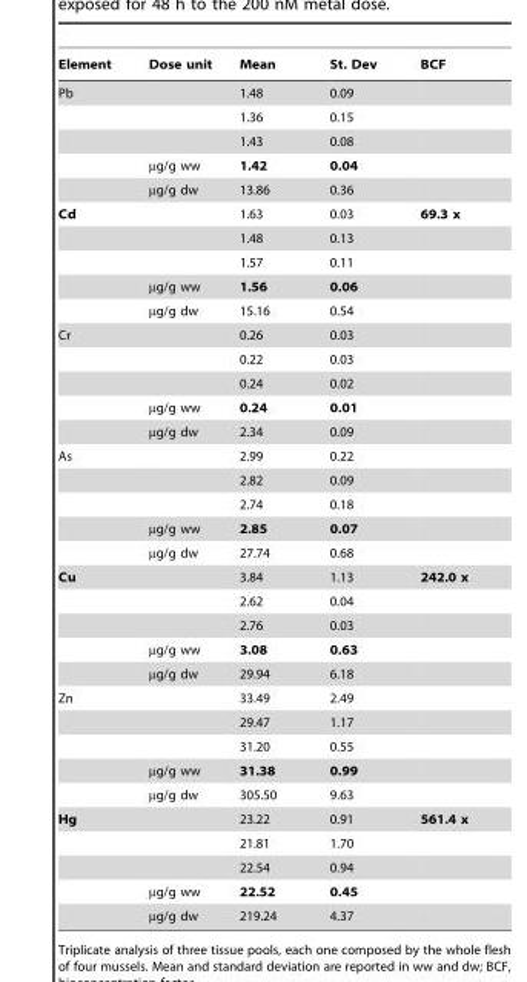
<table><thead><tr><td>Element</td><td>Dose unit</td><td>Mean</td><td>St. Dev</td><td>BCF</td></tr></thead><tbody><tr><td rowspan="5">Pb</td><td></td><td>1.48</td><td>0.09</td><td></td></tr><tr><td></td><td>1.36</td><td>0.15</td><td></td></tr><tr><td></td><td>1.43</td><td>0.08</td><td></td></tr><tr><td>µg/g ww</td><td>1.42</td><td>0.04</td><td></td></tr><tr><td>µg/g dw</td><td>13.86</td><td>0.36</td><td></td></tr><tr><td rowspan="5">Cd</td><td></td><td>1.63</td><td>0.03</td><td>69.3 x</td></tr><tr><td></td><td>1.48</td><td>0.13</td><td></td></tr><tr><td></td><td>1.57</td><td>0.11</td><td></td></tr><tr><td>µg/g ww</td><td>1.56</td><td>0.06</td><td></td></tr><tr><td>µg/g dw</td><td>15.16</td><td>0.54</td><td></td></tr><tr><td rowspan="5">Cr</td><td></td><td>0.26</td><td>0.03</td><td></td></tr><tr><td></td><td>0.22</td><td>0.03</td><td></td></tr><tr><td></td><td>0.24</td><td>0.02</td><td></td></tr><tr><td>µg/g ww</td><td>0.24</td><td>0.01</td><td></td></tr><tr><td>µg/g dw</td><td>2.34</td><td>0.09</td><td></td></tr><tr><td rowspan="5">As</td><td></td><td>2.99</td><td>0.22</td><td></td></tr><tr><td></td><td>2.82</td><td>0.09</td><td></td></tr><tr><td></td><td>2.74</td><td>0.18</td><td></td></tr><tr><td>µg/g ww</td><td>2.85</td><td>0.07</td><td></td></tr><tr><td>µg/g dw</td><td>27.74</td><td>0.68</td><td></td></tr><tr><td rowspan="5">Cu</td><td></td><td>3.84</td><td>1.13</td><td>242.0 x</td></tr><tr><td></td><td>2.62</td><td>0.04</td><td></td></tr><tr><td></td><td>2.76</td><td>0.03</td><td></td></tr><tr><td>µg/g ww</td><td>3.08</td><td>0.63</td><td></td></tr><tr><td>µg/g dw</td><td>29.94</td><td>6.18</td><td></td></tr><tr><td rowspan="5">Zn</td><td></td><td>33.49</td><td>2.49</td><td></td></tr><tr><td></td><td>29.47</td><td>1.17</td><td></td></tr><tr><td></td><td>31.20</td><td>0.55</td><td></td></tr><tr><td>µg/g ww</td><td>31.38</td><td>0.99</td><td></td></tr><tr><td>µg/g dw</td><td>305.50</td><td>9.63</td><td></td></tr><tr><td rowspan="5">Hg</td><td></td><td>23.22</td><td>0.91</td><td>561.4 x</td></tr><tr><td></td><td>21.81</td><td>1.70</td><td></td></tr><tr><td></td><td>22.54</td><td>0.94</td><td></td></tr><tr><td>µg/g ww</td><td>22.52</td><td>0.45</td><td></td></tr><tr><td>µg/g dw</td><td>219.24</td><td>4.37</td><td></td></tr></tbody></table>